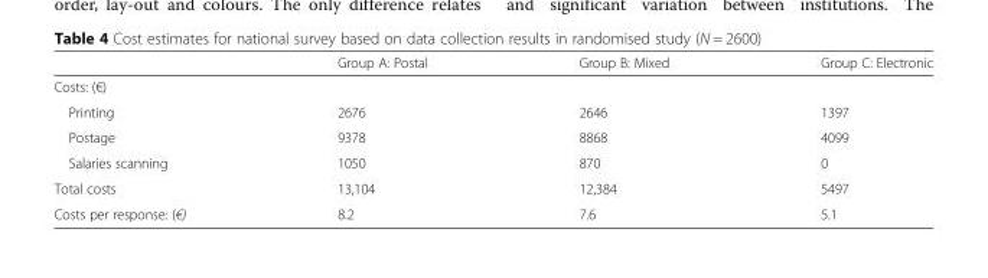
<table><thead><tr><td></td><td>Group A: Postal</td><td>Group B: Mixed</td><td>Group C: Electronic</td></tr></thead><tbody><tr><td colspan="4">Costs: (€)</td></tr><tr><td>Printing</td><td>2676</td><td>2646</td><td>1397</td></tr><tr><td>Postage</td><td>9378</td><td>8868</td><td>4099</td></tr><tr><td>Salaries scanning</td><td>1050</td><td>870</td><td>0</td></tr><tr><td>Total costs</td><td>13,104</td><td>12,384</td><td>5497</td></tr><tr><td>Costs per response: (€)</td><td>8.2</td><td>7.6</td><td>5.1</td></tr></tbody></table>